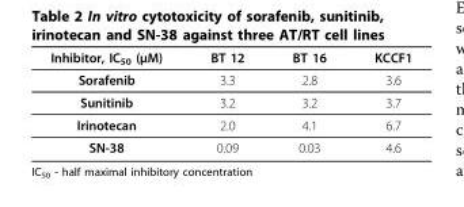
<table><thead><tr><td>Inhibitor, IC<sub>50</sub> (μM)</td><td>BT 12</td><td>BT 16</td><td>KCCF1</td></tr></thead><tbody><tr><td>Sorafenib</td><td>3.3</td><td>2.8</td><td>3.6</td></tr><tr><td>Sunitinib</td><td>3.2</td><td>3.2</td><td>3.7</td></tr><tr><td>Irinotecan</td><td>2.0</td><td>4.1</td><td>6.7</td></tr><tr><td>SN-38</td><td>0.09</td><td>0.03</td><td>4.6</td></tr></tbody></table>